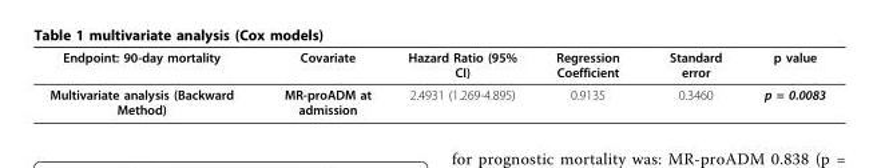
<table><thead><tr><td>Endpoint: 90-day mortality</td><td>Covariate</td><td>Hazard Ratio (95% CI)</td><td>Regression Coefficient</td><td>Standard error</td><td>p value</td></tr></thead><tbody><tr><td>Multivariate analysis (Backward Method)</td><td>MR-proADM at admission</td><td>2.4931 (1.269-4.895)</td><td>0.9135</td><td>0.3460</td><td>p = 0.0083</td></tr></tbody></table>